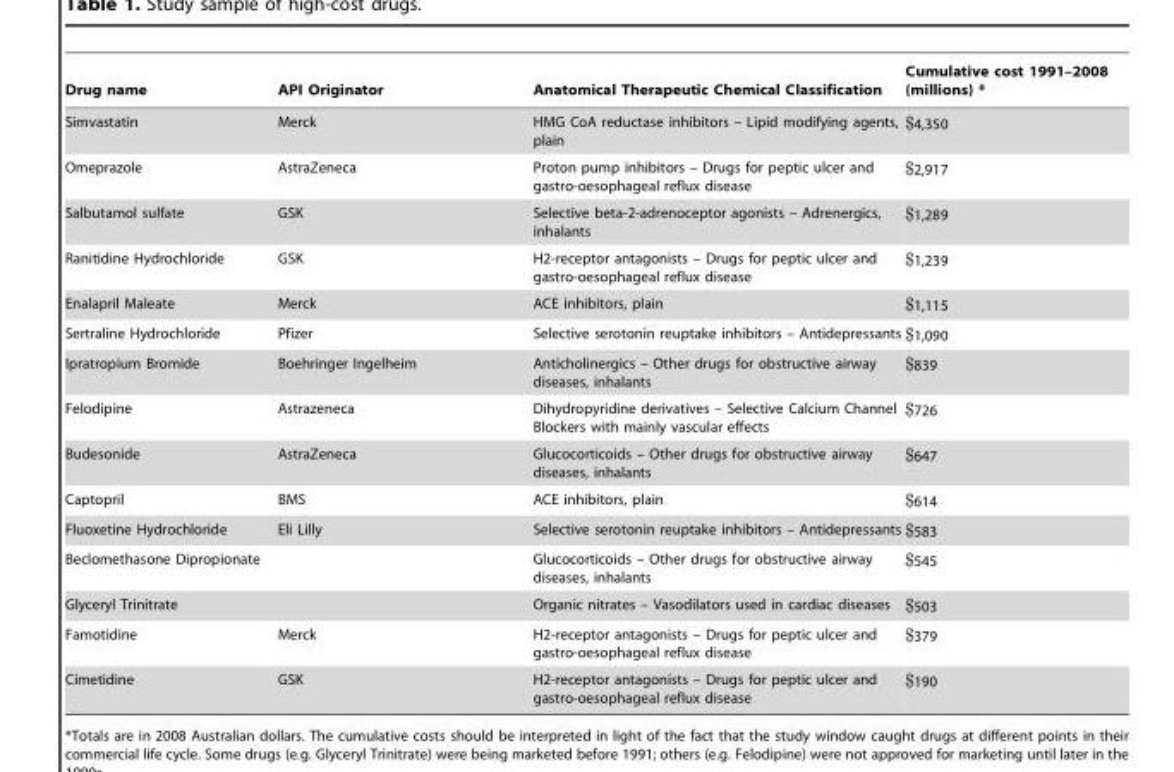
<table><thead><tr><td>Drug name</td><td>API Originator</td><td>Anatomical Therapeutic Chemical Classification</td><td>Cumulative cost 1991–2008 (millions) *</td></tr></thead><tbody><tr><td>Simvastatin</td><td>Merck</td><td>HMG CoA reductase inhibitors – Lipid modifying agents, plain</td><td>$4,350</td></tr><tr><td>Omeprazole</td><td>AstraZeneca</td><td>Proton pump inhibitors – Drugs for peptic ulcer and gastro-oesophageal reflux disease</td><td>$2,917</td></tr><tr><td>Salbutamol sulfate</td><td>GSK</td><td>Selective beta-2-adrenoceptor agonists – Adrenergics, inhalants</td><td>$1,289</td></tr><tr><td>Ranitidine Hydrochloride</td><td>GSK</td><td>H2-receptor antagonists – Drugs for peptic ulcer and gastro-oesophageal reflux disease</td><td>$1,239</td></tr><tr><td>Enalapril Maleate</td><td>Merck</td><td>ACE inhibitors, plain</td><td>$1,115</td></tr><tr><td>Sertraline Hydrochloride</td><td>Pfizer</td><td>Selective serotonin reuptake inhibitors – Antidepressants</td><td>$1,090</td></tr><tr><td>Ipratropium Bromide</td><td>Boehringer Ingelheim</td><td>Anticholinergics – Other drugs for obstructive airway diseases, inhalants</td><td>$839</td></tr><tr><td>Felodipine</td><td>Astrazeneca</td><td>Dihydropyridine derivatives – Selective Calcium Channel Blockers with mainly vascular effects</td><td>$726</td></tr><tr><td>Budesonide</td><td>AstraZeneca</td><td>Glucocorticoids – Other drugs for obstructive airway diseases, inhalants</td><td>$647</td></tr><tr><td>Captopril</td><td>BMS</td><td>ACE inhibitors, plain</td><td>$614</td></tr><tr><td>Fluoxetine Hydrochloride</td><td>Eli Lilly</td><td>Selective serotonin reuptake inhibitors – Antidepressants</td><td>$583</td></tr><tr><td>Beclomethasone Dipropionate</td><td></td><td>Glucocorticoids – Other drugs for obstructive airway diseases, inhalants</td><td>$545</td></tr><tr><td>Glyceryl Trinitrate</td><td></td><td>Organic nitrates – Vasodilators used in cardiac diseases</td><td>$503</td></tr><tr><td>Famotidine</td><td>Merck</td><td>H2-receptor antagonists – Drugs for peptic ulcer and gastro-oesophageal reflux disease</td><td>$379</td></tr><tr><td>Cimetidine</td><td>GSK</td><td>H2-receptor antagonists – Drugs for peptic ulcer and gastro-oesophageal reflux disease</td><td>$190</td></tr></tbody></table>